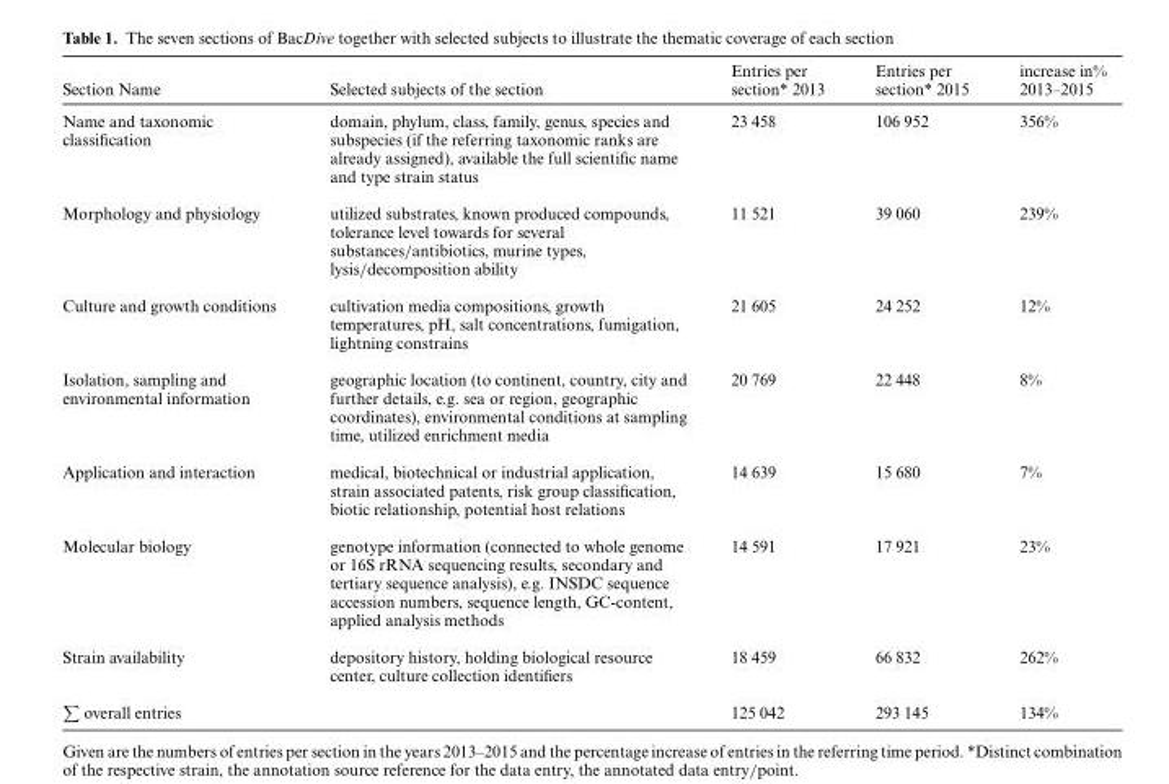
<table><thead><tr><td>Section Name</td><td>Selected subjects of the section</td><td>Entries per section* 2013</td><td>Entries per section* 2015</td><td>increase in% 2013–2015</td></tr></thead><tbody><tr><td>Name and taxonomic classification</td><td>domain, phylum, class, family, genus, species and subspecies (if the referring taxonomic ranks are already assigned), available the full scientific name and type strain status</td><td>23 458</td><td>106 952</td><td>356%</td></tr><tr><td>Morphology and physiology</td><td>utilized substrates, known produced compounds, tolerance level towards for several substances/antibiotics, murine types, lysis/decomposition ability</td><td>11 521</td><td>39 060</td><td>239%</td></tr><tr><td>Culture and growth conditions</td><td>cultivation media compositions, growth temperatures, pH, salt concentrations, fumigation, lightning constrains</td><td>21 605</td><td>24 252</td><td>12%</td></tr><tr><td>Isolation, sampling and environmental information</td><td>geographic location (to continent, country, city and further details, e.g. sea or region, geographic coordinates), environmental conditions at sampling time, utilized enrichment media</td><td>20 769</td><td>22 448</td><td>8%</td></tr><tr><td>Application and interaction</td><td>medical, biotechnical or industrial application, strain associated patents, risk group classification, biotic relationship, potential host relations</td><td>14 639</td><td>15 680</td><td>7%</td></tr><tr><td>Molecular biology</td><td>genotype information (connected to whole genome or 16S rRNA sequencing results, secondary and tertiary sequence analysis), e.g. INSDC sequence accession numbers, sequence length, GC-content, applied analysis methods</td><td>14 591</td><td>17 921</td><td>23%</td></tr><tr><td>Strain availability</td><td>depository history, holding biological resource center, culture collection identifiers</td><td>18 459</td><td>66 832</td><td>262%</td></tr><tr><td>overall entries</td><td></td><td>125 042</td><td>293 145</td><td>134%</td></tr></tbody></table>